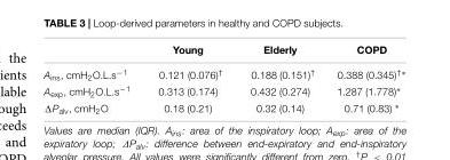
<table><thead><tr><td></td><td>Young</td><td>Elderly</td><td>COPD</td></tr></thead><tbody><tr><td>A<sub>ins</sub>, cmH<sub>2</sub>O.L.s<sup>−1</sup></td><td>0.121 (0.076)<sup>†</sup></td><td>0.188 (0.151)<sup>†</sup></td><td>0.388 (0.345)<sup>†∗</sup></td></tr><tr><td>A<sub>exp</sub>, cmH<sub>2</sub>O.L.s<sup>−1</sup></td><td>0.313 (0.174)</td><td>0.432 (0.274)</td><td>1.287 (1.778)∗</td></tr><tr><td>ΔP<sub>alv</sub>, cmH<sub>2</sub>O</td><td>0.18 (0.21)</td><td>0.32 (0.14)</td><td>0.71 (0.83) ∗</td></tr></tbody></table>